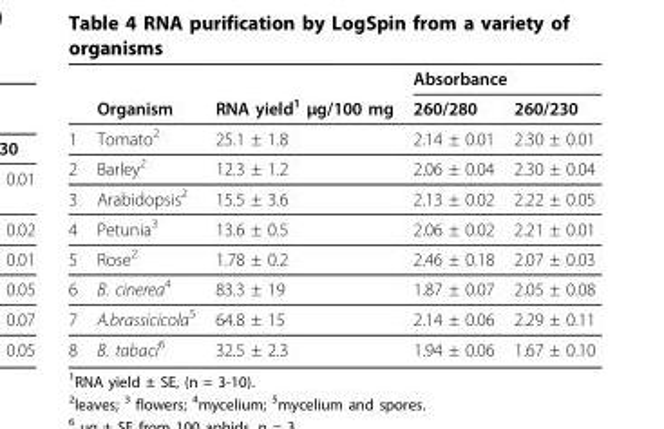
<table><thead><tr><td rowspan="2"></td><td rowspan="2">Organism</td><td rowspan="2">RNA yield<sup>1</sup> μg/100 mg</td><td colspan="2">Absorbance</td></tr><tr><td>260/280</td><td>260/230</td></tr></thead><tbody><tr><td>1</td><td>Tomato<sup>2</sup></td><td>25.1 ± 1.8</td><td>2.14 ± 0.01</td><td>2.30 ± 0.01</td></tr><tr><td>2</td><td>Barley<sup>2</sup></td><td>12.3 ± 1.2</td><td>2.06 ± 0.04</td><td>2.30 ± 0.04</td></tr><tr><td>3</td><td>Arabidopsis<sup>2</sup></td><td>15.5 ± 3.6</td><td>2.13 ± 0.02</td><td>2.22 ± 0.05</td></tr><tr><td>4</td><td>Petunia<sup>3</sup></td><td>13.6 ± 0.5</td><td>2.06 ± 0.02</td><td>2.21 ± 0.01</td></tr><tr><td>5</td><td>Rose<sup>2</sup></td><td>1.78 ± 0.2</td><td>2.46 ± 0.18</td><td>2.07 ± 0.03</td></tr><tr><td>6</td><td>B. cinerea<sup>4</sup></td><td>83.3 ± 19</td><td>1.87 ± 0.07</td><td>2.05 ± 0.08</td></tr><tr><td>7</td><td>A.brassicicola<sup>5</sup></td><td>64.8 ± 15</td><td>2.14 ± 0.06</td><td>2.29 ± 0.11</td></tr><tr><td>8</td><td>B. tabaci<sup>6</sup></td><td>32.5 ± 2.3</td><td>1.94 ± 0.06</td><td>1.67 ± 0.10</td></tr></tbody></table>